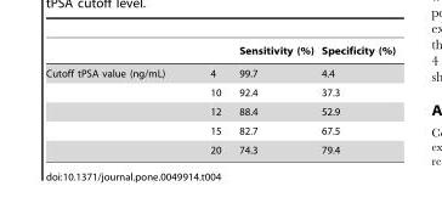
<table><thead><tr><td></td><td></td><td>Sensitivity (%)</td><td>Specificity (%)</td></tr></thead><tbody><tr><td rowspan="5">Cutoff tPSA value (ng/mL)</td><td>4</td><td>99.7</td><td>4.4</td></tr><tr><td>10</td><td>92.4</td><td>37.3</td></tr><tr><td>12</td><td>88.4</td><td>52.9</td></tr><tr><td>15</td><td>82.7</td><td>67.5</td></tr><tr><td>20</td><td>74.3</td><td>79.4</td></tr></tbody></table>